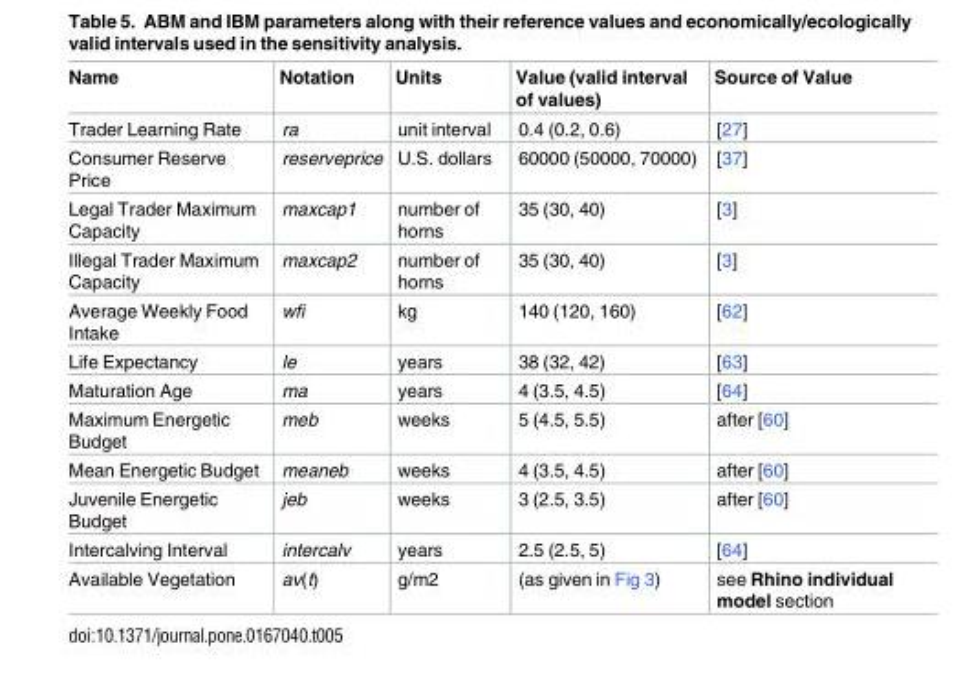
<table><thead><tr><td>Name</td><td>Notation</td><td>Units</td><td>Value (valid interval of values)</td><td>Source of Value</td></tr></thead><tbody><tr><td>Trader Learning Rate</td><td>ra</td><td>unit interval</td><td>0.4 (0.2, 0.6)</td><td>[27]</td></tr><tr><td>Consumer Reserve Price</td><td>reserveprice</td><td>U.S. dollars</td><td>60000 (50000, 70000)</td><td>[37]</td></tr><tr><td>Legal Trader Maximum Capacity</td><td>maxcap1</td><td>number of horns</td><td>35 (30, 40)</td><td>[3]</td></tr><tr><td>Illegal Trader Maximum Capacity</td><td>maxcap2</td><td>number of horns</td><td>35 (30, 40)</td><td>[3]</td></tr><tr><td>Average Weekly Food Intake</td><td>wfi</td><td>kg</td><td>140 (120, 160)</td><td>[62]</td></tr><tr><td>Life Expectancy</td><td>le</td><td>years</td><td>38 (32, 42)</td><td>[63]</td></tr><tr><td>Maturation Age</td><td>ma</td><td>years</td><td>4 (3.5, 4.5)</td><td>[64]</td></tr><tr><td>Maximum Energetic Budget</td><td>meb</td><td>weeks</td><td>5 (4.5, 5.5)</td><td>after [60]</td></tr><tr><td>Mean Energetic Budget</td><td>meaneb</td><td>weeks</td><td>4 (3.5, 4.5)</td><td>after [60]</td></tr><tr><td>Juvenile Energetic Budget</td><td>jeb</td><td>weeks</td><td>3 (2.5, 3.5)</td><td>after [60]</td></tr><tr><td>Intercalving Interval</td><td>intercalv</td><td>years</td><td>2.5 (2.5, 5)</td><td>[64]</td></tr><tr><td>Available Vegetation</td><td>av(t)</td><td>g/m2</td><td>(as given in Fig 3)</td><td>see Rhino individual model section</td></tr></tbody></table>